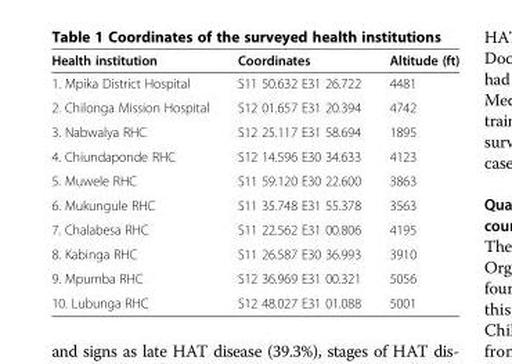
<table><thead><tr><td>Health institution</td><td>Coordinates</td><td>Altitude (ft)</td></tr></thead><tbody><tr><td>1. Mpika District Hospital</td><td>S11 50.632 E31 26.722</td><td>4481</td></tr><tr><td>2. Chilonga Mission Hospital</td><td>S12 01.657 E31 20.394</td><td>4742</td></tr><tr><td>3. Nabwalya RHC</td><td>S12 25.117 E31 58.694</td><td>1895</td></tr><tr><td>4. Chiundaponde RHC</td><td>S12 14.596 E30 34.633</td><td>4123</td></tr><tr><td>5. Muwele RHC</td><td>S11 59.120 E30 22.600</td><td>3863</td></tr><tr><td>6. Mukungule RHC</td><td>S11 35.748 E31 55.378</td><td>3563</td></tr><tr><td>7. Chalabesa RHC</td><td>S11 22.562 E31 00.806</td><td>4195</td></tr><tr><td>8. Kabinga RHC</td><td>S11 26.587 E30 36.993</td><td>3910</td></tr><tr><td>9. Mpumba RHC</td><td>S12 36.969 E31 00.321</td><td>5056</td></tr><tr><td>10. Lubunga RHC</td><td>S12 48.027 E31 01.088</td><td>5001</td></tr></tbody></table>